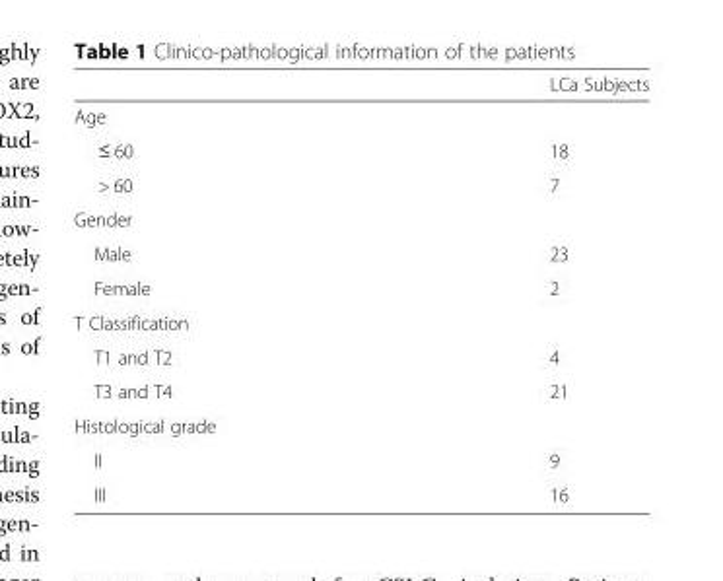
<table><thead><tr><td></td><td>LCa Subjects</td></tr></thead><tbody><tr><td colspan="2">Age</td></tr><tr><td>≤ 60</td><td>18</td></tr><tr><td>&gt; 60</td><td>7</td></tr><tr><td colspan="2">Gender</td></tr><tr><td>Male</td><td>23</td></tr><tr><td>Female</td><td>2</td></tr><tr><td colspan="2">T Classification</td></tr><tr><td>T1 and T2</td><td>4</td></tr><tr><td>T3 and T4</td><td>21</td></tr><tr><td colspan="2">Histological grade</td></tr><tr><td>II</td><td>9</td></tr><tr><td>III</td><td>16</td></tr></tbody></table>